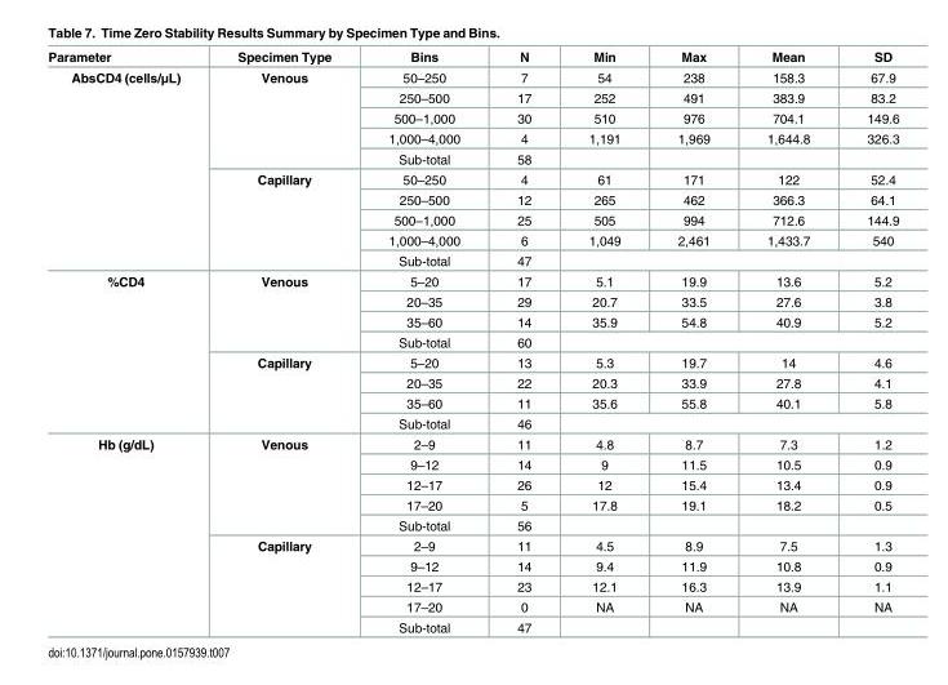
<table><thead><tr><td>Parameter</td><td>Specimen Type</td><td>Bins</td><td>N</td><td>Min</td><td>Max</td><td>Mean</td><td>SD</td></tr></thead><tbody><tr><td rowspan="10">AbsCD4 (cells/μL)</td><td rowspan="5">Venous</td><td>50–250</td><td>7</td><td>54</td><td>238</td><td>158.3</td><td>67.9</td></tr><tr><td>250–500</td><td>17</td><td>252</td><td>491</td><td>383.9</td><td>83.2</td></tr><tr><td>500–1,000</td><td>30</td><td>510</td><td>976</td><td>704.1</td><td>149.6</td></tr><tr><td>1,000–4,000</td><td>4</td><td>1,191</td><td>1,969</td><td>1,644.8</td><td>326.3</td></tr><tr><td>Sub-total</td><td>58</td><td></td><td></td><td></td><td></td></tr><tr><td rowspan="5">Capillary</td><td>50–250</td><td>4</td><td>61</td><td>171</td><td>122</td><td>52.4</td></tr><tr><td>250–500</td><td>12</td><td>265</td><td>462</td><td>366.3</td><td>64.1</td></tr><tr><td>500–1,000</td><td>25</td><td>505</td><td>994</td><td>712.6</td><td>144.9</td></tr><tr><td>1,000–4,000</td><td>6</td><td>1,049</td><td>2,461</td><td>1,433.7</td><td>540</td></tr><tr><td>Sub-total</td><td>47</td><td colspan="4"></td></tr><tr><td rowspan="8">%CD4</td><td rowspan="4">Venous</td><td>5–20</td><td>17</td><td>5.1</td><td>19.9</td><td>13.6</td><td>5.2</td></tr><tr><td>20–35</td><td>29</td><td>20.7</td><td>33.5</td><td>27.6</td><td>3.8</td></tr><tr><td>35–60</td><td>14</td><td>35.9</td><td>54.8</td><td>40.9</td><td>5.2</td></tr><tr><td>Sub-total</td><td>60</td><td colspan="4"></td></tr><tr><td rowspan="4">Capillary</td><td>5–20</td><td>13</td><td>5.3</td><td>19.7</td><td>14</td><td>4.6</td></tr><tr><td>20–35</td><td>22</td><td>20.3</td><td>33.9</td><td>27.8</td><td>4.1</td></tr><tr><td>35–60</td><td>11</td><td>35.6</td><td>55.8</td><td>40.1</td><td>5.8</td></tr><tr><td>Sub-total</td><td>46</td><td colspan="4"></td></tr><tr><td rowspan="10">Hb (g/dL)</td><td rowspan="5">Venous</td><td>2–9</td><td>11</td><td>4.8</td><td>8.7</td><td>7.3</td><td>1.2</td></tr><tr><td>9–12</td><td>14</td><td>9</td><td>11.5</td><td>10.5</td><td>0.9</td></tr><tr><td>12–17</td><td>26</td><td>12</td><td>15.4</td><td>13.4</td><td>0.9</td></tr><tr><td>17–20</td><td>5</td><td>17.8</td><td>19.1</td><td>18.2</td><td>0.5</td></tr><tr><td>Sub-total</td><td>56</td><td></td><td></td><td></td><td></td></tr><tr><td rowspan="5">Capillary</td><td>2–9</td><td>11</td><td>4.5</td><td>8.9</td><td>7.5</td><td>1.3</td></tr><tr><td>9–12</td><td>14</td><td>9.4</td><td>11.9</td><td>10.8</td><td>0.9</td></tr><tr><td>12–17</td><td>23</td><td>12.1</td><td>16.3</td><td>13.9</td><td>1.1</td></tr><tr><td>17–20</td><td>0</td><td>NA</td><td>NA</td><td>NA</td><td>NA</td></tr><tr><td>Sub-total</td><td>47</td><td></td><td></td><td></td><td></td></tr></tbody></table>